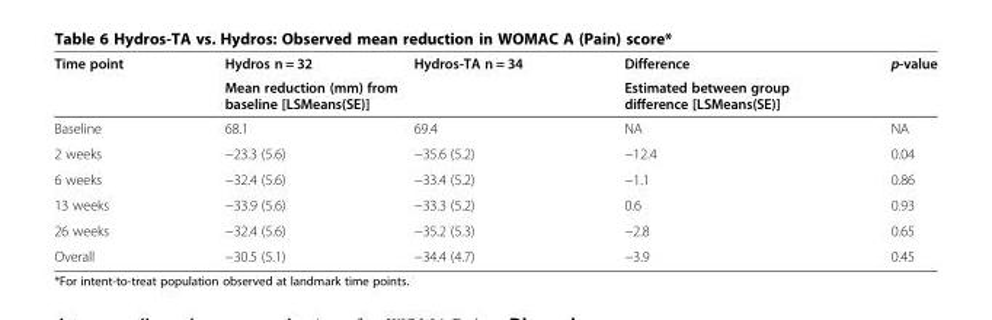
<table><thead><tr><td rowspan="2">Time point</td><td>Hydros n = 32</td><td>Hydros-TA n = 34</td><td rowspan="2">Difference Estimated between group difference [LSMeans(SE)]</td><td rowspan="2">p-value</td></tr><tr><td colspan="2">Mean reduction (mm) from baseline [LSMeans(SE)]</td></tr></thead><tbody><tr><td>Baseline</td><td>68.1</td><td>69.4</td><td>NA</td><td>NA</td></tr><tr><td>2 weeks</td><td>−23.3 (5.6)</td><td>−35.6 (5.2)</td><td>−12.4</td><td>0.04</td></tr><tr><td>6 weeks</td><td>−32.4 (5.6)</td><td>−33.4 (5.2)</td><td>−1.1</td><td>0.86</td></tr><tr><td>13 weeks</td><td>−33.9 (5.6)</td><td>−33.3 (5.2)</td><td>0.6</td><td>0.93</td></tr><tr><td>26 weeks</td><td>−32.4 (5.6)</td><td>−35.2 (5.3)</td><td>−2.8</td><td>0.65</td></tr><tr><td>Overall</td><td>−30.5 (5.1)</td><td>−34.4 (4.7)</td><td>−3.9</td><td>0.45</td></tr></tbody></table>